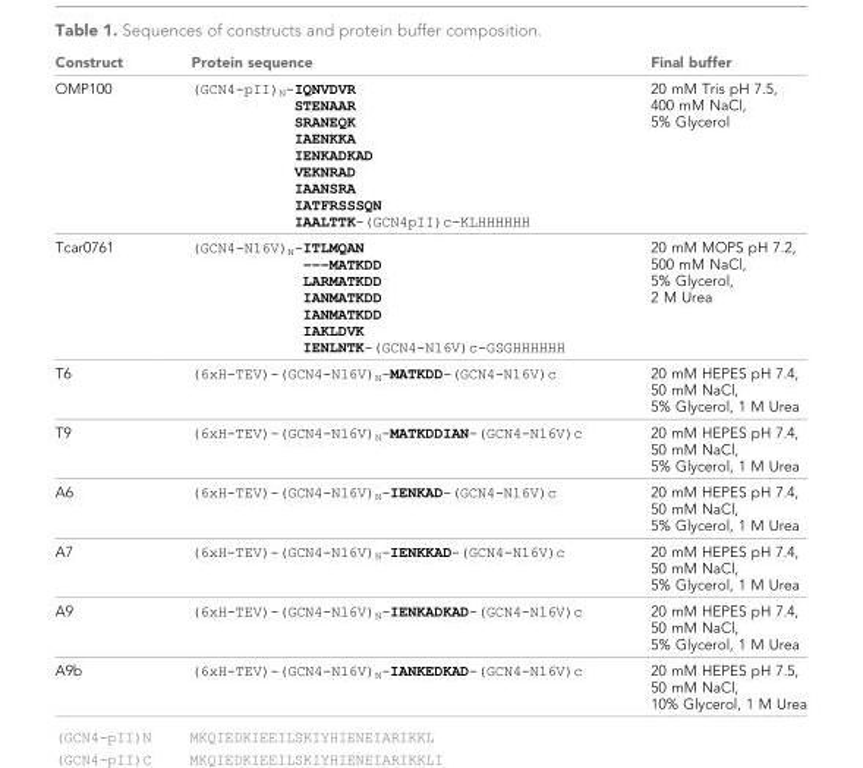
<table><thead><tr><td>Construct</td><td>Protein sequence</td><td>Final buffer</td></tr></thead><tbody><tr><td>OMP100</td><td>(GCN4-pII)<sub>N</sub>-IQNVDVR STENAAR SRANEQK IAENKKA IENKADKAD VEKNRAD IAANSRA IATFRSSSQN IAALTTK-(GCN4pII)c-KLHHHHHH</td><td>20 mM Tris pH 7.5, 400 mM NaCl, 5% Glycerol</td></tr><tr><td>Tcar0761</td><td>(GCN4-N16V)<sub>N</sub>-ITLMQAN –––MATKDD LARMATKDD IANMATKDD IANMATKDD IAKLDVK IENLNTK-(GCN4-N16V)c-GSGHHHHHH</td><td>20 mM MOPS pH 7.2, 500 mM NaCl, 5% Glycerol, 2 M Urea</td></tr><tr><td>T6</td><td>(6xH-TEV)-(GCN4-N16V)<sub>N</sub>-MATKDD-(GCN4-N16V)c</td><td>20 mM HEPES pH 7.4, 50 mM NaCl, 5% Glycerol, 1 M Urea</td></tr><tr><td>T9</td><td>(6xH-TEV)-(GCN4-N16V)<sub>N</sub>-MATKDDIAN-(GCN4-N16V)c</td><td>20 mM HEPES pH 7.4, 50 mM NaCl, 5% Glycerol, 1 M Urea</td></tr><tr><td>A6</td><td>(6xH-TEV)-(GCN4-N16V)<sub>N</sub>-IENKAD-(GCN4-N16V)c</td><td>20 mM HEPES pH 7.4, 50 mM NaCl, 5% Glycerol, 1 M Urea</td></tr><tr><td>A7</td><td>(6xH-TEV)-(GCN4-N16V)<sub>N</sub>-IENKKAD-(GCN4-N16V)c</td><td>20 mM HEPES pH 7.4, 50 mM NaCl, 5% Glycerol, 1 M Urea</td></tr><tr><td>A9</td><td>(6xH-TEV)-(GCN4-N16V)<sub>N</sub>-IENKADKAD-(GCN4-N16V)c</td><td>20 mM HEPES pH 7.4, 50 mM NaCl, 5% Glycerol, 1 M Urea</td></tr><tr><td>A9b</td><td>(6xH-TEV)-(GCN4-N16V)<sub>N</sub>-IANKEDKAD-(GCN4-N16V)c</td><td>20 mM HEPES pH 7.5, 50 mM NaCl, 10% Glycerol, 1 M Urea</td></tr></tbody></table>